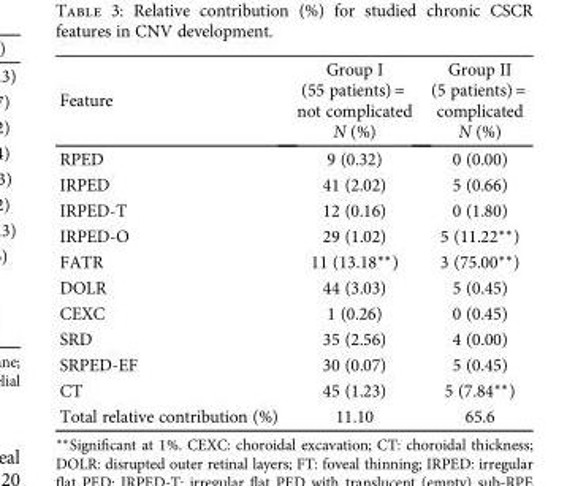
<table><thead><tr><td>Feature</td><td>Group I (55 patients) = not complicated N (%)</td><td>Group II (5 patients) = complicated N (%)</td></tr></thead><tbody><tr><td>RPED</td><td>9 (0.32)</td><td>0 (0.00)</td></tr><tr><td>IRPED</td><td>41 (2.02)</td><td>5 (0.66)</td></tr><tr><td>IRPED-T</td><td>12 (0.16)</td><td>0 (1.80)</td></tr><tr><td>IRPED-O</td><td>29 (1.02)</td><td>5 (11.22∗∗)</td></tr><tr><td>FATR</td><td>11 (13.18∗∗)</td><td>3 (75.00∗∗)</td></tr><tr><td>DOLR</td><td>44 (3.03)</td><td>5 (0.45)</td></tr><tr><td>CEXC</td><td>1 (0.26)</td><td>0 (0.45)</td></tr><tr><td>SRD</td><td>35 (2.56)</td><td>4 (0.00)</td></tr><tr><td>SRPED-EF</td><td>30 (0.07)</td><td>5 (0.45)</td></tr><tr><td>CT</td><td>45 (1.23)</td><td>5 (7.84∗∗)</td></tr><tr><td>Total relative contribution (%)</td><td>11.10</td><td>65.6</td></tr></tbody></table>